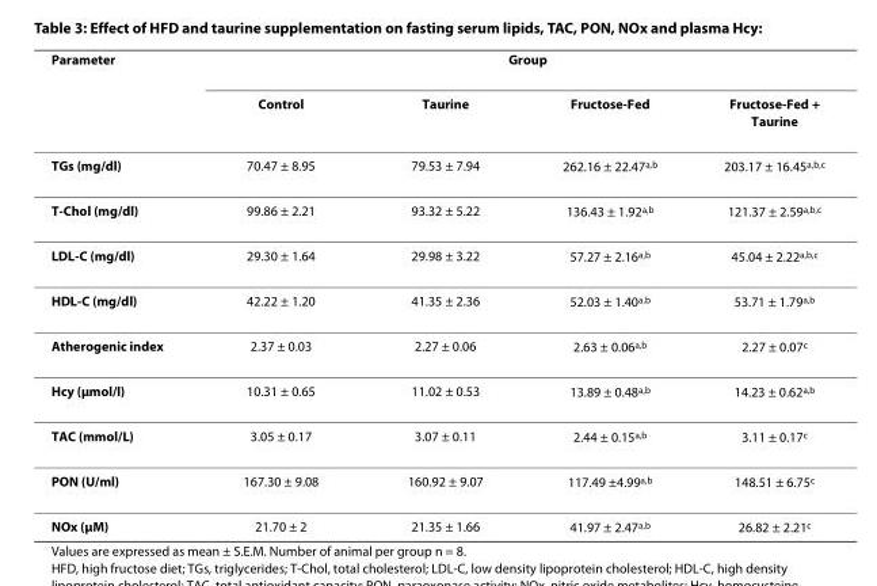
<table><thead><tr><td rowspan="2">Parameter</td><td colspan="4">Group</td></tr><tr><td>Control</td><td>Taurine</td><td>Fructose-Fed</td><td>Fructose-Fed + Taurine</td></tr></thead><tbody><tr><td>TGs (mg/dl)</td><td>70.47 ± 8.95</td><td>79.53 ± 7.94</td><td>262.16 ± 22.47<sup>a,b</sup></td><td>203.17 ± 16.45<sup>a,b,c</sup></td></tr><tr><td>T-Chol (mg/dl)</td><td>99.86 ± 2.21</td><td>93.32 ± 5.22</td><td>136.43 ± 1.92<sup>a,b</sup></td><td>121.37 ± 2.59<sup>a,b,c</sup></td></tr><tr><td>LDL-C (mg/dl)</td><td>29.30 ± 1.64</td><td>29.98 ± 3.22</td><td>57.27 ± 2.16<sup>a,b</sup></td><td>45.04 ± 2.22<sup>a,b,c</sup></td></tr><tr><td>HDL-C (mg/dl)</td><td>42.22 ± 1.20</td><td>41.35 ± 2.36</td><td>52.03 ± 1.40<sup>a,b</sup></td><td>53.71 ± 1.79<sup>a,b</sup></td></tr><tr><td>Atherogenic index</td><td>2.37 ± 0.03</td><td>2.27 ± 0.06</td><td>2.63 ± 0.06<sup>a,b</sup></td><td>2.27 ± 0.07<sup>c</sup></td></tr><tr><td>Hcy (μmol/l)</td><td>10.31 ± 0.65</td><td>11.02 ± 0.53</td><td>13.89 ± 0.48<sup>a,b</sup></td><td>14.23 ± 0.62<sup>a,b</sup></td></tr><tr><td>TAC (mmol/L)</td><td>3.05 ± 0.17</td><td>3.07 ± 0.11</td><td>2.44 ± 0.15<sup>a,b</sup></td><td>3.11 ± 0.17<sup>c</sup></td></tr><tr><td>PON (U/ml)</td><td>167.30 ± 9.08</td><td>160.92 ± 9.07</td><td>117.49 ±4.99<sup>a,b</sup></td><td>148.51 ± 6.75<sup>c</sup></td></tr><tr><td>NOx (μM)</td><td>21.70 ± 2</td><td>21.35 ± 1.66</td><td>41.97 ± 2.47<sup>a,b</sup></td><td>26.82 ± 2.21<sup>c</sup></td></tr></tbody></table>